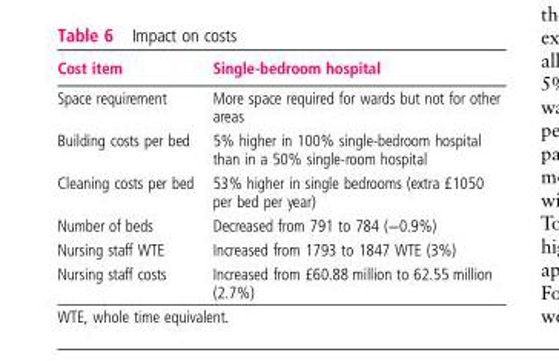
<table><thead><tr><td>Cost item</td><td>Single-bedroom hospital</td></tr></thead><tbody><tr><td>Space requirement</td><td>More space required for wards but not for other areas</td></tr><tr><td>Building costs per bed</td><td>5% higher in 100% single-bedroom hospital than in a 50% single-room hospital</td></tr><tr><td>Cleaning costs per bed</td><td>53% higher in single bedrooms (extra £1050 per bed per year)</td></tr><tr><td>Number of beds</td><td>Decreased from 791 to 784 (−0.9%)</td></tr><tr><td>Nursing staff WTE</td><td>Increased from 1793 to 1847 WTE (3%)</td></tr><tr><td>Nursing staff costs</td><td>Increased from £60.88 million to 62.55 million (2.7%)</td></tr></tbody></table>